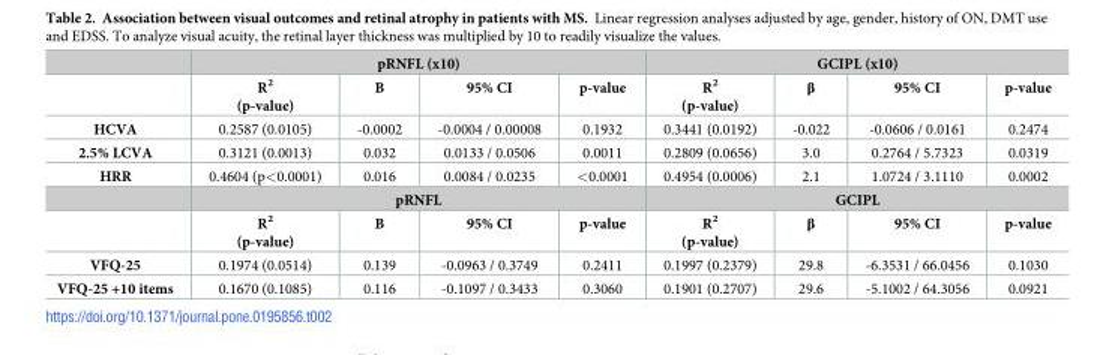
<table><thead><tr><td rowspan="2"></td><td colspan="4">pRNFL (x10)</td><td colspan="4">GCIPL (x10)</td></tr><tr><td>R<sup>2</sup> (p-value)</td><td>Β</td><td>95% CI</td><td>p-value</td><td>R<sup>2</sup> (p-value)</td><td>β</td><td>95% CI</td><td>p-value</td></tr></thead><tbody><tr><td>HCVA</td><td>0.2587 (0.0105)</td><td>-0.0002</td><td>-0.0004 / 0.00008</td><td>0.1932</td><td>0.3441 (0.0192)</td><td>-0.022</td><td>-0.0606 / 0.0161</td><td>0.2474</td></tr><tr><td>2.5% LCVA</td><td>0.3121 (0.0013)</td><td>0.032</td><td>0.0133 / 0.0506</td><td>0.0011</td><td>0.2809 (0.0656)</td><td>3.0</td><td>0.2764 / 5.7323</td><td>0.0319</td></tr><tr><td rowspan="3">HRR</td><td>0.4604 (p&lt;0.0001)</td><td>0.016</td><td>0.0084 / 0.0235</td><td>&lt;0.0001</td><td>0.4954 (0.0006)</td><td>2.1</td><td>1.0724 / 3.1110</td><td>0.0002</td></tr><tr><td colspan="4">pRNFL</td><td colspan="4">GCIPL</td></tr><tr><td>R<sup>2</sup> (p-value)</td><td>Β</td><td>95% CI</td><td>p-value</td><td>R<sup>2</sup> (p-value)</td><td>β</td><td>95% CI</td><td>p-value</td></tr><tr><td>VFQ-25</td><td>0.1974 (0.0514)</td><td>0.139</td><td>-0.0963 / 0.3749</td><td>0.2411</td><td>0.1997 (0.2379)</td><td>29.8</td><td>-6.3531 / 66.0456</td><td>0.1030</td></tr><tr><td>VFQ-25 +10 items</td><td>0.1670 (0.1085)</td><td>0.116</td><td>-0.1097 / 0.3433</td><td>0.3060</td><td>0.1901 (0.2707)</td><td>29.6</td><td>-5.1002 / 64.3056</td><td>0.0921</td></tr></tbody></table>